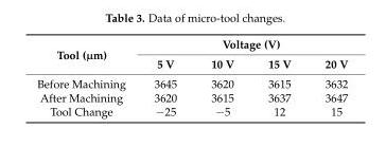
<table><thead><tr><td rowspan="2">Tool (µm)</td><td colspan="4">Voltage (V)</td></tr><tr><td>5 V</td><td>10 V</td><td>15 V</td><td>20 V</td></tr></thead><tbody><tr><td>Before Machining</td><td>3645</td><td>3620</td><td>3615</td><td>3632</td></tr><tr><td>After Machining</td><td>3620</td><td>3615</td><td>3637</td><td>3647</td></tr><tr><td>Tool Change</td><td>−25</td><td>−5</td><td>12</td><td>15</td></tr></tbody></table>